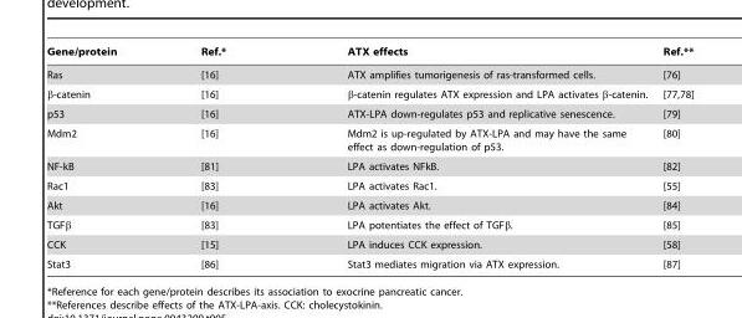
<table><thead><tr><td>Gene/protein</td><td>Ref.*</td><td>ATX effects</td><td>Ref.**</td></tr></thead><tbody><tr><td>Ras</td><td>[16]</td><td>ATX amplifies tumorigenesis of ras-transformed cells.</td><td>[76]</td></tr><tr><td>β-catenin</td><td>[16]</td><td>β-catenin regulates ATX expression and LPA activates β-catenin.</td><td>[77,78]</td></tr><tr><td>p53</td><td>[16]</td><td>ATX-LPA down-regulates p53 and replicative senescence.</td><td>[79]</td></tr><tr><td>Mdm2</td><td>[16]</td><td>Mdm2 is up-regulated by ATX-LPA and may have the same effect as down-regulation of p53.</td><td>[80]</td></tr><tr><td>NF-kB</td><td>[81]</td><td>LPA activates NFkB.</td><td>[82]</td></tr><tr><td>Rac1</td><td>[83]</td><td>LPA activates Rac1.</td><td>[55]</td></tr><tr><td>Akt</td><td>[16]</td><td>LPA activates Akt.</td><td>[84]</td></tr><tr><td>TGFβ</td><td>[83]</td><td>LPA potentiates the effect of TGFβ.</td><td>[85]</td></tr><tr><td>CCK</td><td>[15]</td><td>LPA induces CCK expression.</td><td>[58]</td></tr><tr><td>Stat3</td><td>[86]</td><td>Stat3 mediates migration via ATX expression.</td><td>[87]</td></tr></tbody></table>